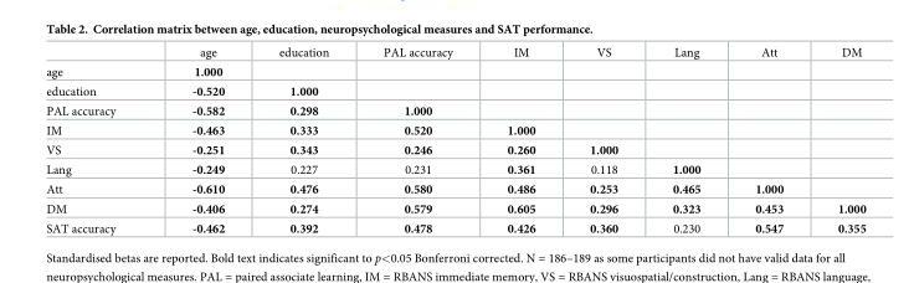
<table><thead><tr><td></td><td>age</td><td>education</td><td>PAL accuracy</td><td>IM</td><td>VS</td><td>Lang</td><td>Att</td><td>DM</td></tr></thead><tbody><tr><td>age</td><td>1.000</td><td></td><td></td><td></td><td></td><td></td><td></td><td></td></tr><tr><td>education</td><td>-0.520</td><td>1.000</td><td></td><td></td><td></td><td></td><td></td><td></td></tr><tr><td>PAL accuracy</td><td>-0.582</td><td>0.298</td><td>1.000</td><td></td><td></td><td></td><td></td><td></td></tr><tr><td>IM</td><td>-0.463</td><td>0.333</td><td>0.520</td><td>1.000</td><td></td><td></td><td></td><td></td></tr><tr><td>VS</td><td>-0.251</td><td>0.343</td><td>0.246</td><td>0.260</td><td>1.000</td><td></td><td></td><td></td></tr><tr><td>Lang</td><td>-0.249</td><td>0.227</td><td>0.231</td><td>0.361</td><td>0.118</td><td>1.000</td><td></td><td></td></tr><tr><td>Att</td><td>-0.610</td><td>0.476</td><td>0.580</td><td>0.486</td><td>0.253</td><td>0.465</td><td>1.000</td><td></td></tr><tr><td>DM</td><td>-0.406</td><td>0.274</td><td>0.579</td><td>0.605</td><td>0.296</td><td>0.323</td><td>0.453</td><td>1.000</td></tr><tr><td>SAT accuracy</td><td>-0.462</td><td>0.392</td><td>0.478</td><td>0.426</td><td>0.360</td><td>0.230</td><td>0.547</td><td>0.355</td></tr></tbody></table>